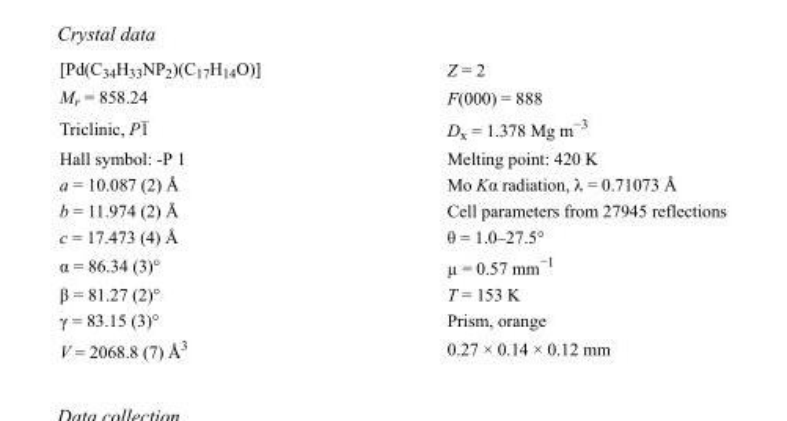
<table><tbody><tr><td>[Pd(C<sub>34</sub>H<sub>33</sub>NP<sub>2</sub>)(C<sub>17</sub>H<sub>14</sub>O)]</td><td>Z = 2</td></tr><tr><td>M<sub>r</sub> = 858.24</td><td>F(000) = 888</td></tr><tr><td>Triclinic, P1</td><td>D<sub>x</sub> = 1.378 Mg m<sup>−3</sup></td></tr><tr><td>Hall symbol: -P 1</td><td>Melting point: 420 K</td></tr><tr><td>a = 10.087 (2) Å</td><td>Mo Kα radiation, λ = 0.71073 Å</td></tr><tr><td>b = 11.974 (2) Å</td><td>Cell parameters from 27945 reflections</td></tr><tr><td>c = 17.473 (4) Å</td><td>θ = 1.0–27.5°</td></tr><tr><td>α = 86.34 (3)°</td><td>µ = 0.57 mm<sup>−1</sup></td></tr><tr><td>β = 81.27 (2)°</td><td>T = 153 K</td></tr><tr><td>γ = 83.15 (3)°</td><td>Prism, orange</td></tr><tr><td>V = 2068.8 (7) Å<sup>3</sup></td><td>0.27 × 0.14 × 0.12 mm</td></tr></tbody></table>